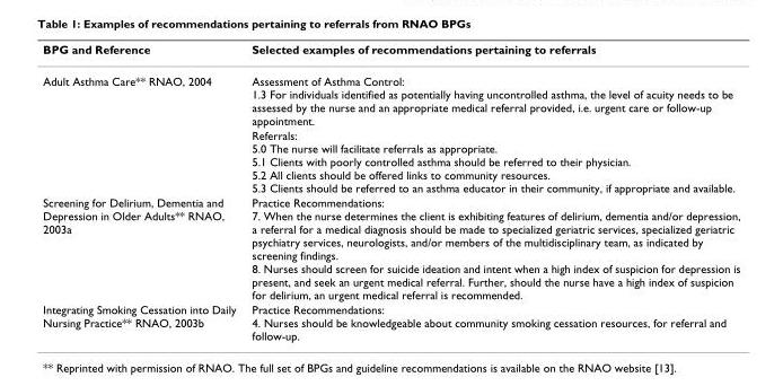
<table><thead><tr><td>BPG and Reference</td><td>Selected examples of recommendations pertaining to referrals</td></tr></thead><tbody><tr><td rowspan="2">Adult Asthma Care** RNAO, 2004</td><td>Assessment of Asthma Control: 1.3 For individuals identified as potentially having uncontrolled asthma, the level of acuity needs to be assessed by the nurse and an appropriate medical referral provided, i.e. urgent care or follow-up appointment.</td></tr><tr><td>Referrals: 5.0 The nurse will facilitate referrals as appropriate. 5.1 Clients with poorly controlled asthma should be referred to their physician. 5.2 All clients should be offered links to community resources. 5.3 Clients should be referred to an asthma educator in their community, if appropriate and available.</td></tr><tr><td>Screening for Delirium, Dementia and Depression in Older Adults** RNAO, 2003a</td><td>Practice Recommendations: 7. When the nurse determines the client is exhibiting features of delirium, dementia and/or depression, a referral for a medical diagnosis should be made to specialized geriatric services, specialized geriatric psychiatry services, neurologists, and/or members of the multidisciplinary team, as indicated by screening findings. 8. Nurses should screen for suicide ideation and intent when a high index of suspicion for depression is present, and seek an urgent medical referral. Further, should the nurse have a high index of suspicion for delirium, an urgent medical referral is recommended.</td></tr><tr><td>Integrating Smoking Cessation into Daily Nursing Practice** RNAO, 2003b</td><td>Practice Recommendations: 4. Nurses should be knowledgeable about community smoking cessation resources, for referral and follow-up.</td></tr></tbody></table>